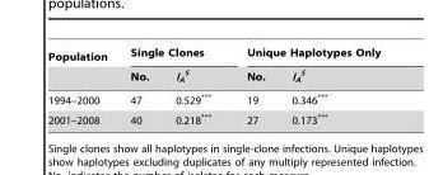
<table><thead><tr><td rowspan="2">Population</td><td colspan="2">Single Clones</td><td colspan="2">Unique Haplotypes Only</td></tr><tr><td>No.</td><td>I<sub>A</sub> <sup>S</sup></td><td>No.</td><td>I<sub>A</sub> <sup>S</sup></td></tr></thead><tbody><tr><td>1994–2000</td><td>47</td><td>0.529***</td><td>19</td><td>0.346***</td></tr><tr><td>2001–2008</td><td>40</td><td>0.218***</td><td>27</td><td>0.173***</td></tr></tbody></table>